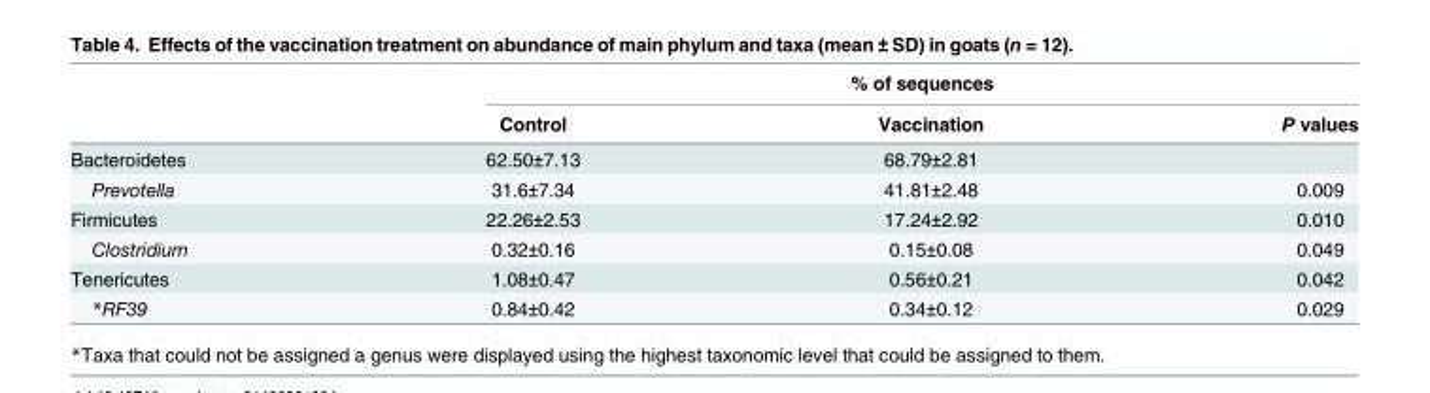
<table><thead><tr><td rowspan="2"></td><td colspan="3">% of sequences</td></tr><tr><td>Control</td><td>Vaccination</td><td>P values</td></tr></thead><tbody><tr><td>Bacteroidetes</td><td>62.50±7.13</td><td>68.79±2.81</td><td></td></tr><tr><td>Prevotella</td><td>31.6±7.34</td><td>41.81±2.48</td><td>0.009</td></tr><tr><td>Firmicutes</td><td>22.26±2.53</td><td>17.24±2.92</td><td>0.010</td></tr><tr><td>Clostridium</td><td>0.32±0.16</td><td>0.15±0.08</td><td>0.049</td></tr><tr><td>Tenericutes</td><td>1.08±0.47</td><td>0.56±0.21</td><td>0.042</td></tr><tr><td>*RF39</td><td>0.84±0.42</td><td>0.34±0.12</td><td>0.029</td></tr></tbody></table>